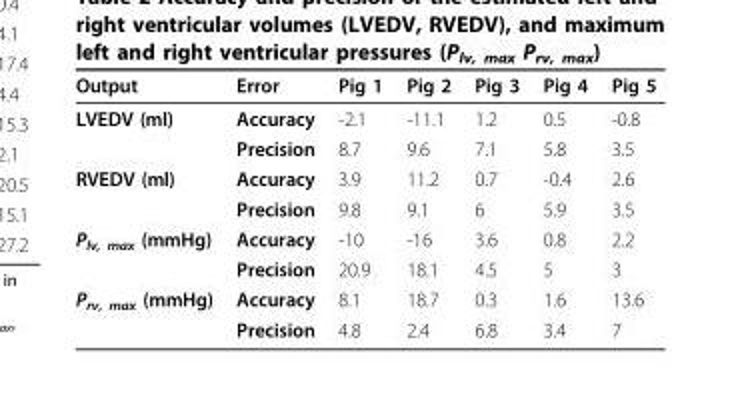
<table><thead><tr><td>Output</td><td>Error</td><td>Pig 1</td><td>Pig 2</td><td>Pig 3</td><td>Pig 4</td><td>Pig 5</td></tr></thead><tbody><tr><td rowspan="2">LVEDV (ml)</td><td>Accuracy</td><td>-2.1</td><td>-11.1</td><td>1.2</td><td>0.5</td><td>-0.8</td></tr><tr><td>Precision</td><td>8.7</td><td>9.6</td><td>7.1</td><td>5.8</td><td>3.5</td></tr><tr><td rowspan="2">RVEDV (ml)</td><td>Accuracy</td><td>3.9</td><td>11.2</td><td>0.7</td><td>-0.4</td><td>2.6</td></tr><tr><td>Precision</td><td>9.8</td><td>9.1</td><td>6</td><td>5.9</td><td>3.5</td></tr><tr><td rowspan="2">P<sub>lv, max</sub> (mmHg)</td><td>Accuracy</td><td>-10</td><td>-16</td><td>3.6</td><td>0.8</td><td>2.2</td></tr><tr><td>Precision</td><td>20.9</td><td>18.1</td><td>4.5</td><td>5</td><td>3</td></tr><tr><td rowspan="2">P<sub>rv, max</sub> (mmHg)</td><td>Accuracy</td><td>8.1</td><td>18.7</td><td>0.3</td><td>1.6</td><td>13.6</td></tr><tr><td>Precision</td><td>4.8</td><td>2.4</td><td>6.8</td><td>3.4</td><td>7</td></tr></tbody></table>